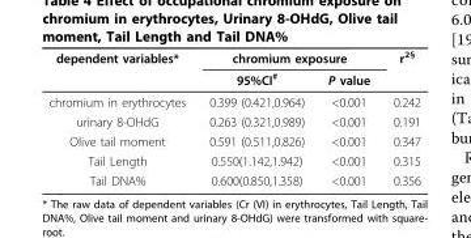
<table><thead><tr><td rowspan="2">dependent variables*</td><td colspan="2">chromium exposure</td><td rowspan="2">r<sup>2§</sup></td></tr><tr><td>95%CI<sup>#</sup></td><td>P value</td></tr></thead><tbody><tr><td>chromium in erythrocytes</td><td>0.399 (0.421,0.964)</td><td>&lt;0.001</td><td>0.242</td></tr><tr><td>urinary 8-OHdG</td><td>0.263 (0.321,0.989)</td><td>&lt;0.001</td><td>0.191</td></tr><tr><td>Olive tail moment</td><td>0.591 (0.511,0.826)</td><td>&lt;0.001</td><td>0.347</td></tr><tr><td>Tail Length</td><td>0.550(1.142,1.942)</td><td>&lt;0.001</td><td>0.315</td></tr><tr><td>Tail DNA%</td><td>0.600(0.850,1.358)</td><td>&lt;0.001</td><td>0.356</td></tr></tbody></table>